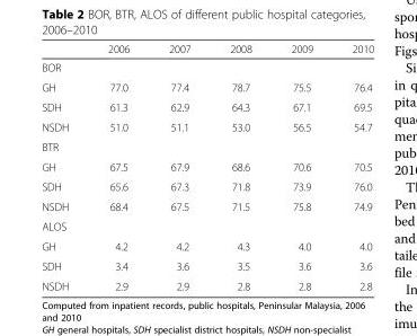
<table><thead><tr><td></td><td>2006</td><td>2007</td><td>2008</td><td>2009</td><td>2010</td></tr></thead><tbody><tr><td colspan="6">BOR</td></tr><tr><td>GH</td><td>77.0</td><td>77.4</td><td>78.7</td><td>75.5</td><td>76.4</td></tr><tr><td>SDH</td><td>61.3</td><td>62.9</td><td>64.3</td><td>67.1</td><td>69.5</td></tr><tr><td>NSDH</td><td>51.0</td><td>51.1</td><td>53.0</td><td>56.5</td><td>54.7</td></tr><tr><td colspan="6">BTR</td></tr><tr><td>GH</td><td>67.5</td><td>67.9</td><td>68.6</td><td>70.6</td><td>70.5</td></tr><tr><td>SDH</td><td>65.6</td><td>67.3</td><td>71.8</td><td>73.9</td><td>76.0</td></tr><tr><td>NSDH</td><td>68.4</td><td>67.5</td><td>71.5</td><td>75.8</td><td>74.9</td></tr><tr><td colspan="6">ALOS</td></tr><tr><td>GH</td><td>4.2</td><td>4.2</td><td>4.3</td><td>4.0</td><td>4.0</td></tr><tr><td>SDH</td><td>3.4</td><td>3.6</td><td>3.5</td><td>3.6</td><td>3.6</td></tr><tr><td>NSDH</td><td>2.9</td><td>2.9</td><td>2.8</td><td>2.8</td><td>2.8</td></tr></tbody></table>